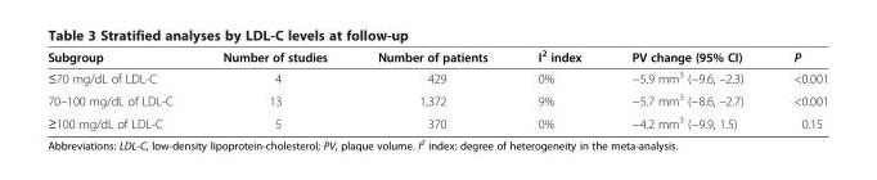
<table><thead><tr><td>Subgroup</td><td>Number of studies</td><td>Number of patients</td><td>I<sup>2</sup> index</td><td>PV change (95% CI)</td><td>P</td></tr></thead><tbody><tr><td>≤70 mg/dL of LDL-C</td><td>4</td><td>429</td><td>0%</td><td>−5.9 mm<sup>3</sup> (−9.6, –2.3)</td><td>&lt;0.001</td></tr><tr><td>70–100 mg/dL of LDL-C</td><td>13</td><td>1,372</td><td>9%</td><td>−5.7 mm<sup>3</sup> (−8.6, –2.7)</td><td>&lt;0.001</td></tr><tr><td>≥100 mg/dL of LDL-C</td><td>5</td><td>370</td><td>0%</td><td>−4.2 mm<sup>3</sup> (−9.9, 1.5)</td><td>0.15</td></tr></tbody></table>